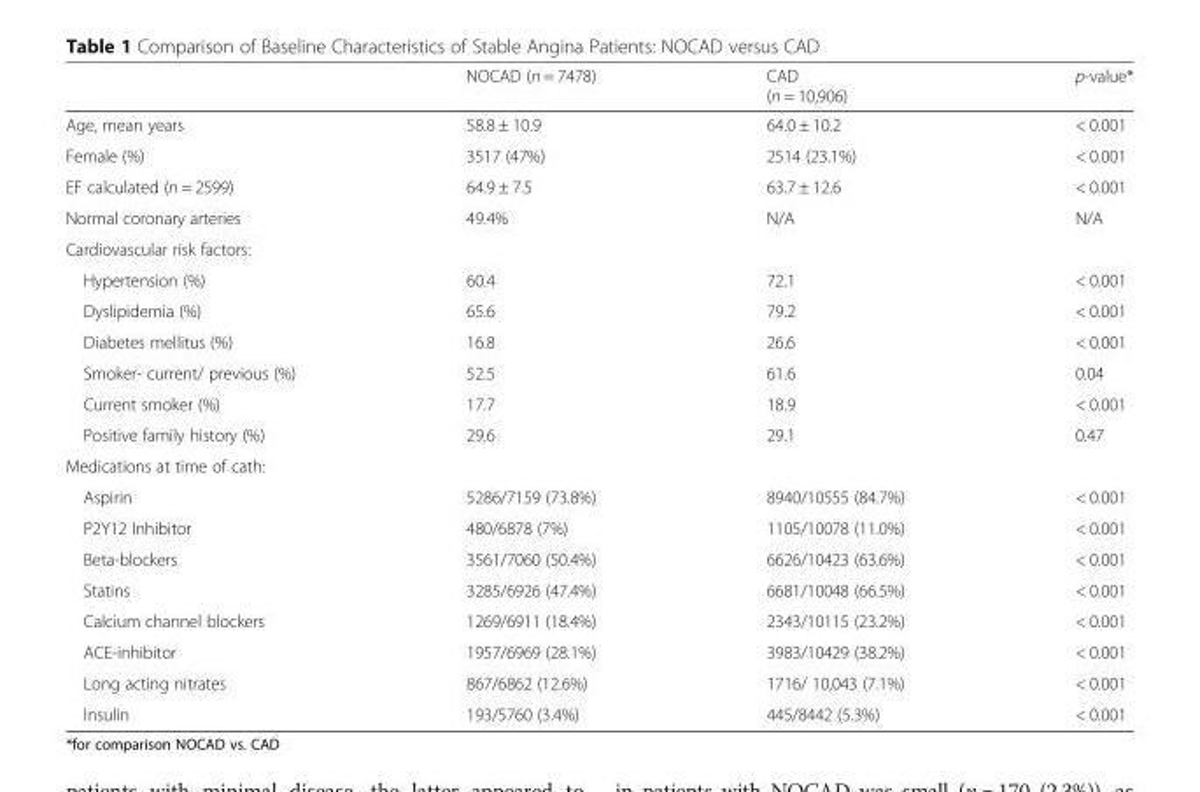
<table><thead><tr><td></td><td>NOCAD (n = 7478)</td><td>CAD (n = 10,906)</td><td>p-value*</td></tr></thead><tbody><tr><td>Age, mean years</td><td>58.8 ± 10.9</td><td>64.0 ± 10.2</td><td>&lt; 0.001</td></tr><tr><td>Female (%)</td><td>3517 (47%)</td><td>2514 (23.1%)</td><td>&lt; 0.001</td></tr><tr><td>EF calculated (n = 2599)</td><td>64.9 ± 7.5</td><td>63.7 ± 12.6</td><td>&lt; 0.001</td></tr><tr><td>Normal coronary arteries</td><td>49.4%</td><td>N/A</td><td>N/A</td></tr><tr><td colspan="4">Cardiovascular risk factors:</td></tr><tr><td>Hypertension (%)</td><td>60.4</td><td>72.1</td><td>&lt; 0.001</td></tr><tr><td>Dyslipidemia (%)</td><td>65.6</td><td>79.2</td><td>&lt; 0.001</td></tr><tr><td>Diabetes mellitus (%)</td><td>16.8</td><td>26.6</td><td>&lt; 0.001</td></tr><tr><td>Smoker- current/ previous (%)</td><td>52.5</td><td>61.6</td><td>0.04</td></tr><tr><td>Current smoker (%)</td><td>17.7</td><td>18.9</td><td>&lt; 0.001</td></tr><tr><td>Positive family history (%)</td><td>29.6</td><td>29.1</td><td>0.47</td></tr><tr><td colspan="4">Medications at time of cath:</td></tr><tr><td>Aspirin</td><td>5286/7159 (73.8%)</td><td>8940/10555 (84.7%)</td><td>&lt; 0.001</td></tr><tr><td>P2Y12 Inhibitor</td><td>480/6878 (7%)</td><td>1105/10078 (11.0%)</td><td>&lt; 0.001</td></tr><tr><td>Beta-blockers</td><td>3561/7060 (50.4%)</td><td>6626/10423 (63.6%)</td><td>&lt; 0.001</td></tr><tr><td>Statins</td><td>3285/6926 (47.4%)</td><td>6681/10048 (66.5%)</td><td>&lt; 0.001</td></tr><tr><td>Calcium channel blockers</td><td>1269/6911 (18.4%)</td><td>2343/10115 (23.2%)</td><td>&lt; 0.001</td></tr><tr><td>ACE-inhibitor</td><td>1957/6969 (28.1%)</td><td>3983/10429 (38.2%)</td><td>&lt; 0.001</td></tr><tr><td>Long acting nitrates</td><td>867/6862 (12.6%)</td><td>1716/ 10,043 (7.1%)</td><td>&lt; 0.001</td></tr><tr><td>Insulin</td><td>193/5760 (3.4%)</td><td>445/8442 (5.3%)</td><td>&lt; 0.001</td></tr></tbody></table>